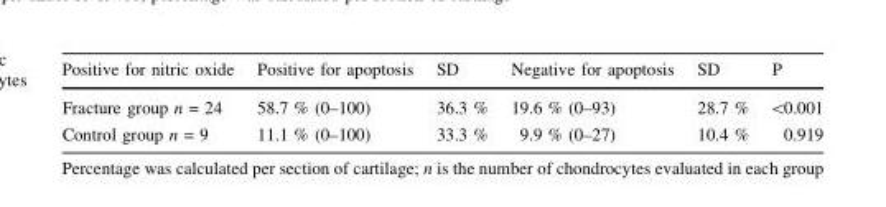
<table><thead><tr><td>Positive for nitric oxide</td><td>Positive for apoptosis</td><td>SD</td><td>Negative for apoptosis</td><td>SD</td><td>P</td></tr></thead><tbody><tr><td>Fracture group n = 24</td><td>58.7 % (0–100)</td><td>36.3 %</td><td>19.6 % (0–93)</td><td>28.7 %</td><td>&lt;0.001</td></tr><tr><td>Control group n = 9</td><td>11.1 % (0–100)</td><td>33.3 %</td><td>9.9 % (0–27)</td><td>10.4 %</td><td>0.919</td></tr></tbody></table>